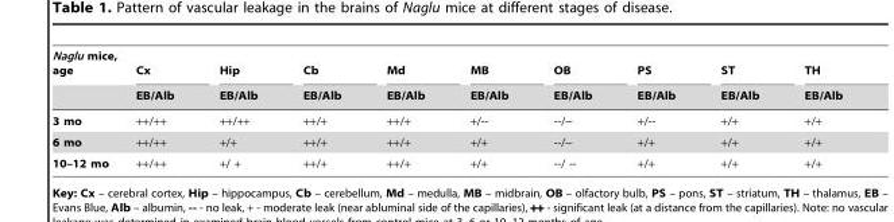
<table><thead><tr><td rowspan="2">Naglu mice, age</td><td rowspan="2">Cx EB/Alb</td><td rowspan="2">Hip EB/Alb</td><td rowspan="2">Cb EB/Alb</td><td rowspan="2">Md EB/Alb</td><td rowspan="2">MB EB/Alb</td><td rowspan="2">OB EB/Alb</td><td rowspan="2">PS EB/Alb</td><td rowspan="2">ST EB/Alb</td><td rowspan="2">TH EB/Alb</td></tr><tr></tr></thead><tbody><tr><td>3 mo</td><td>++/++</td><td>++/++</td><td>++/+</td><td>++/+</td><td>+/--</td><td>--/--</td><td>+/--</td><td>+/+</td><td>+/+</td></tr><tr><td>6 mo</td><td>++/++</td><td>+/+</td><td>++/+</td><td>++/+</td><td>+/+</td><td>--/--</td><td>+/+</td><td>+/+</td><td>+/+</td></tr><tr><td>10–12 mo</td><td>++/++</td><td>+/ +</td><td>++/+</td><td>++/+</td><td>+/+</td><td>--/ --</td><td>+/+</td><td>+/+</td><td>+/+</td></tr></tbody></table>